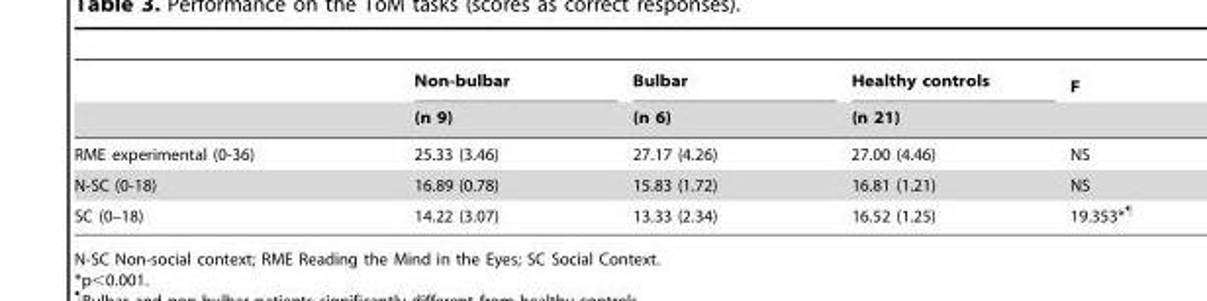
<table><thead><tr><td rowspan="2"></td><td rowspan="2">Non-bulbar (n 9)</td><td rowspan="2">Bulbar (n 6)</td><td rowspan="2">Healthy controls (n 21)</td><td rowspan="2">F</td></tr><tr></tr></thead><tbody><tr><td>RME experimental (0-36)</td><td>25.33 (3.46)</td><td>27.17 (4.26)</td><td>27.00 (4.46)</td><td>NS</td></tr><tr><td>N-SC (0-18)</td><td>16.89 (0.78)</td><td>15.83 (1.72)</td><td>16.81 (1.21)</td><td>NS</td></tr><tr><td>SC (0–18)</td><td>14.22 (3.07)</td><td>13.33 (2.34)</td><td>16.52 (1.25)</td><td>19.353*¶</td></tr></tbody></table>